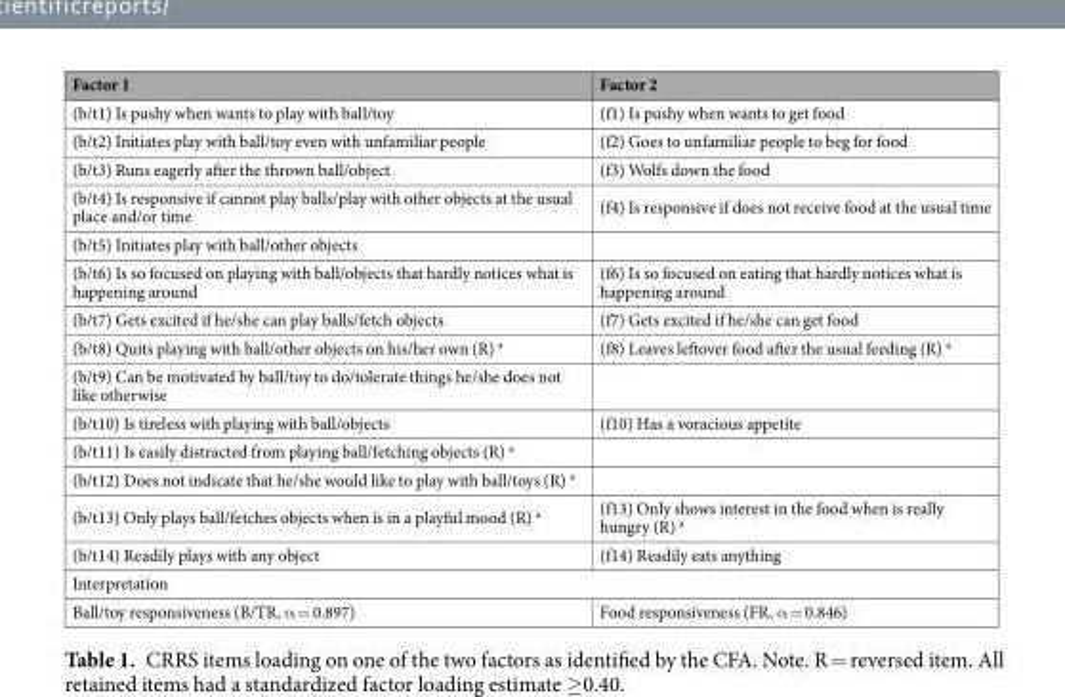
<table><thead><tr><td>Factor 1</td><td>Factor 2</td></tr></thead><tbody><tr><td>(b/t1) Is pushy when wants to play with ball/toy</td><td>(f1) Is pushy when wants to get food</td></tr><tr><td>(b/t2) Initiates play with ball/toy even with unfamiliar people</td><td>(f2) Goes to unfamiliar people to beg for food</td></tr><tr><td>(b/t3) Runs eagerly after the thrown ball/object</td><td>(f3) Wolfs down the food</td></tr><tr><td>(b/t4) Is responsive if cannot play balls/play with other objects at the usual place and/or time</td><td>(f4) Is responsive if does not receive food at the usual time</td></tr><tr><td colspan="2">(b/t5) Initiates play with ball/other objects</td></tr><tr><td>(b/t6) Is so focused on playing with ball/objects that hardly notices what is happening around</td><td>(f6) Is so focused on eating that hardly notices what is happening around</td></tr><tr><td>(b/t7) Gets excited if he/she can play balls/fetch objects</td><td>(f7) Gets excited if he/she can get food</td></tr><tr><td>(b/t8) Quits playing with ball/other objects on his/her own (R) <sup>a</sup></td><td>(f8) Leaves leftover food after the usual feeding (R) <sup>a</sup></td></tr><tr><td colspan="2">(b/t9) Can be motivated by ball/toy to do/tolerate things he/she does not like otherwise</td></tr><tr><td>(b/t10) Is tireless with playing with ball/objects</td><td>(f10) Has a voracious appetite</td></tr><tr><td colspan="2">(b/t11) Is easily distracted from playing ball/fetching objects (R) <sup>a</sup></td></tr><tr><td colspan="2">(b/t12) Does not indicate that he/she would like to play with ball/toys (R) <sup>a</sup></td></tr><tr><td>(b/t13) Only plays ball/fetches objects when is in a playful mood (R) <sup>a</sup></td><td>(f13) Only shows interest in the food when is really hungry (R) <sup>a</sup></td></tr><tr><td>(b/t14) Readily plays with any object</td><td>(f14) Readily eats anything</td></tr><tr><td colspan="2">Interpretation</td></tr><tr><td>Ball/toy responsiveness (B/TR, α = 0.897)</td><td>Food responsiveness (FR, α = 0.846)</td></tr></tbody></table>